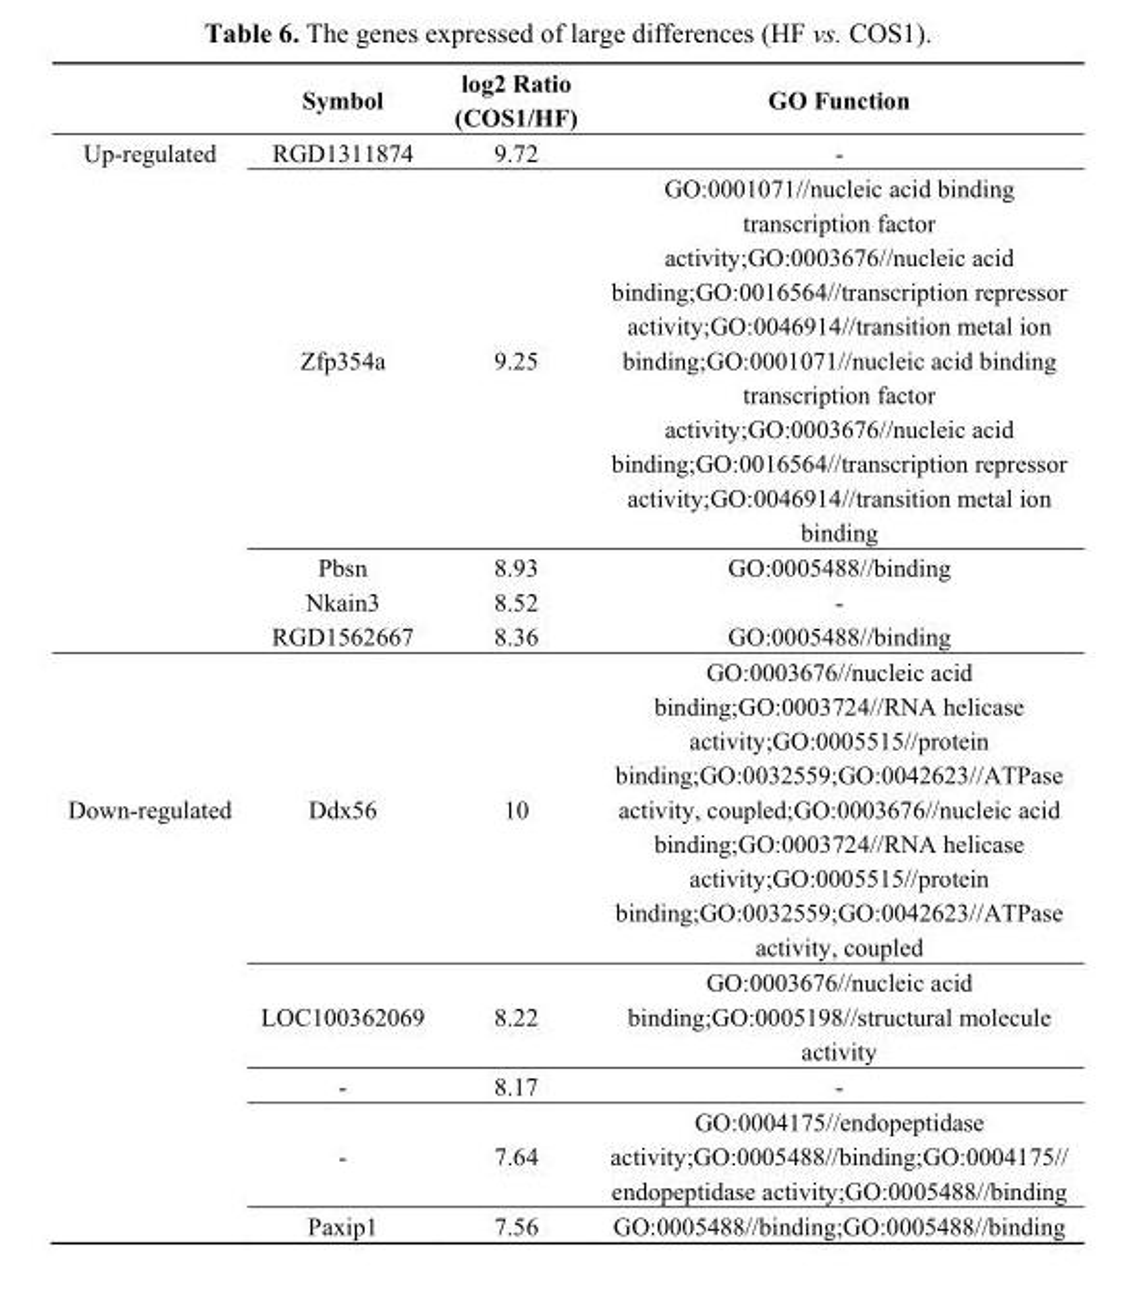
<table><thead><tr><td></td><td>Symbol</td><td>log2 Ratio (COS1/HF)</td><td>GO Function</td></tr></thead><tbody><tr><td rowspan="5">Up-regulated</td><td>RGD1311874</td><td>9.72</td><td>-</td></tr><tr><td>Zfp354a</td><td>9.25</td><td>GO:0001071//nucleic acid binding transcription factor activity;GO:0003676//nucleic acid binding;GO:0016564//transcription repressor activity;GO:0046914//transition metal ion binding;GO:0001071//nucleic acid binding transcription factor activity;GO:0003676//nucleic acid binding;GO:0016564//transcription repressor activity;GO:0046914//transition metal ion binding</td></tr><tr><td>Pbsn</td><td>8.93</td><td>GO:0005488//binding</td></tr><tr><td>Nkain3</td><td>8.52</td><td>-</td></tr><tr><td>RGD1562667</td><td>8.36</td><td>GO:0005488//binding</td></tr><tr><td rowspan="5">Down-regulated</td><td>Ddx56</td><td>10</td><td>GO:0003676//nucleic acid binding;GO:0003724//RNA helicase activity;GO:0005515//protein binding;GO:0032559;GO:0042623//ATPase activity, coupled;GO:0003676//nucleic acid binding;GO:0003724//RNA helicase activity;GO:0005515//protein binding;GO:0032559;GO:0042623//ATPase activity, coupled</td></tr><tr><td>LOC100362069</td><td>8.22</td><td>GO:0003676//nucleic acid binding;GO:0005198//structural molecule activity</td></tr><tr><td>-</td><td>8.17</td><td>-</td></tr><tr><td>-</td><td>7.64</td><td>GO:0004175//endopeptidase activity;GO:0005488//binding;GO:0004175// endopeptidase activity;GO:0005488//binding</td></tr><tr><td>Paxip1</td><td>7.56</td><td>GO:0005488//binding;GO:0005488//binding</td></tr></tbody></table>